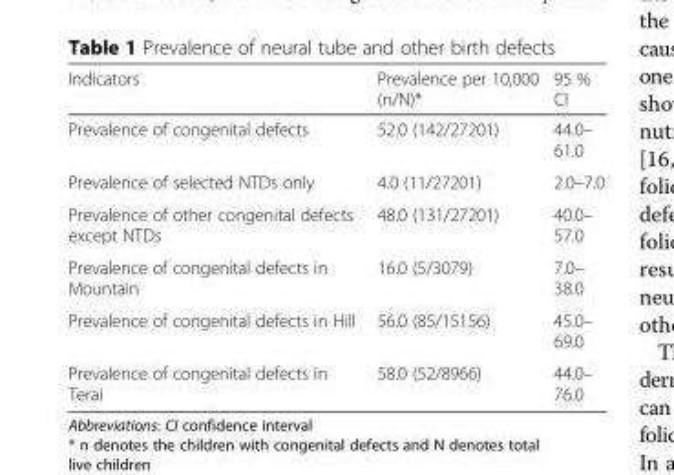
<table><thead><tr><td>Indicators</td><td>Prevalence per 10,000 (n/N)*</td><td>95 % CI</td></tr></thead><tbody><tr><td>Prevalence of congenital defects</td><td>52.0 (142/27201)</td><td>44.0– 61.0</td></tr><tr><td>Prevalence of selected NTDs only</td><td>4.0 (11/27201)</td><td>2.0–7.0</td></tr><tr><td>Prevalence of other congenital defects except NTDs</td><td>48.0 (131/27201)</td><td>40.0– 57.0</td></tr><tr><td>Prevalence of congenital defects in Mountain</td><td>16.0 (5/3079)</td><td>7.0– 38.0</td></tr><tr><td>Prevalence of congenital defects in Hill</td><td>56.0 (85/15156)</td><td>45.0– 69.0</td></tr><tr><td>Prevalence of congenital defects in Terai</td><td>58.0 (52/8966)</td><td>44.0– 76.0</td></tr></tbody></table>